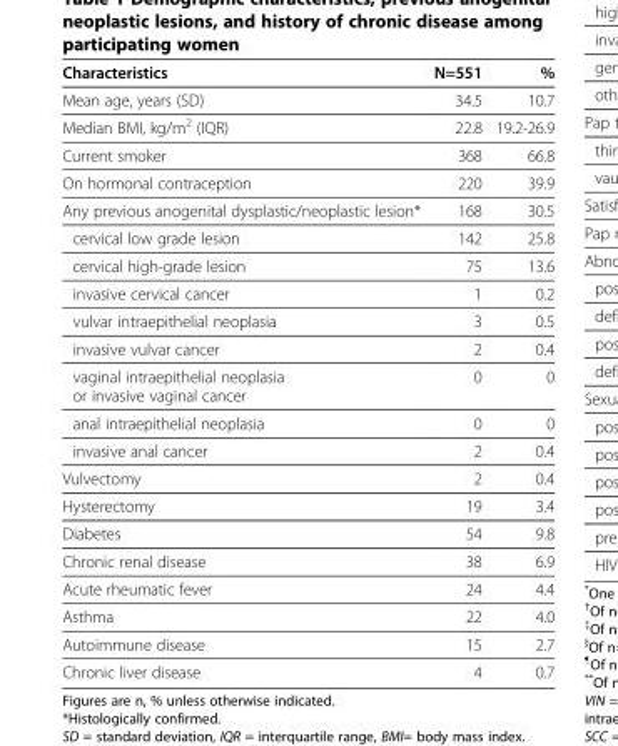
<table><thead><tr><td>Characteristics</td><td>N=551</td><td>%</td></tr></thead><tbody><tr><td>Mean age, years (SD)</td><td>34.5</td><td>10.7</td></tr><tr><td>Median BMI, kg/m<sup>2</sup> (IQR)</td><td>22.8</td><td>19.2-26.9</td></tr><tr><td>Current smoker</td><td>368</td><td>66.8</td></tr><tr><td>On hormonal contraception</td><td>220</td><td>39.9</td></tr><tr><td>Any previous anogenital dysplastic/neoplastic lesion*</td><td>168</td><td>30.5</td></tr><tr><td>cervical low grade lesion</td><td>142</td><td>25.8</td></tr><tr><td>cervical high-grade lesion</td><td>75</td><td>13.6</td></tr><tr><td>invasive cervical cancer</td><td>1</td><td>0.2</td></tr><tr><td>vulvar intraepithelial neoplasia</td><td>3</td><td>0.5</td></tr><tr><td>invasive vulvar cancer</td><td>2</td><td>0.4</td></tr><tr><td>vaginal intraepithelial neoplasia or invasive vaginal cancer</td><td>0</td><td>0</td></tr><tr><td>anal intraepithelial neoplasia</td><td>0</td><td>0</td></tr><tr><td>invasive anal cancer</td><td>2</td><td>0.4</td></tr><tr><td>Vulvectomy</td><td>2</td><td>0.4</td></tr><tr><td>Hysterectomy</td><td>19</td><td>3.4</td></tr><tr><td>Diabetes</td><td>54</td><td>9.8</td></tr><tr><td>Chronic renal disease</td><td>38</td><td>6.9</td></tr><tr><td>Acute rheumatic fever</td><td>24</td><td>4.4</td></tr><tr><td>Asthma</td><td>22</td><td>4.0</td></tr><tr><td>Autoimmune disease</td><td>15</td><td>2.7</td></tr><tr><td>Chronic liver disease</td><td>4</td><td>0.7</td></tr></tbody></table>